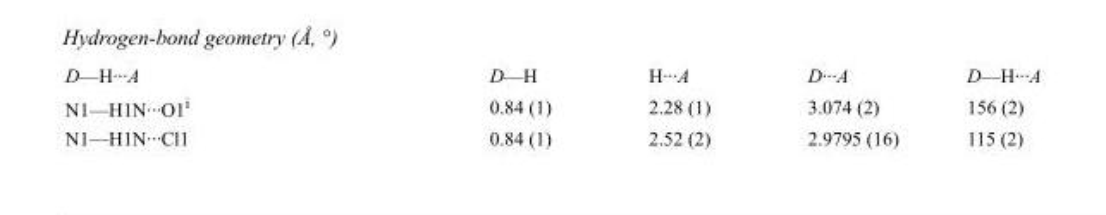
<table><tbody><tr><td>D—H···A</td><td>D—H</td><td>H···A</td><td>D···A</td><td>D—H···A</td></tr><tr><td>N1—H1N···O1<sup>i</sup></td><td>0.84 (1)</td><td>2.28 (1)</td><td>3.074 (2)</td><td>156 (2)</td></tr><tr><td>N1—H1N···Cl1</td><td>0.84 (1)</td><td>2.52 (2)</td><td>2.9795 (16)</td><td>115 (2)</td></tr></tbody></table>